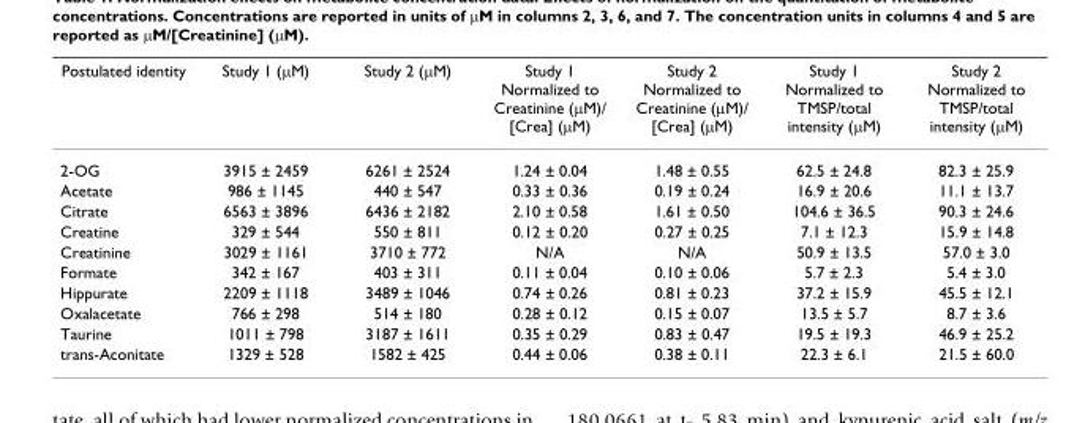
<table><thead><tr><td>Postulated identity</td><td>Study 1 (μM)</td><td>Study 2 (μM)</td><td>Study 1 Normalized to Creatinine (μM)/ [Crea] (μM)</td><td>Study 2 Normalized to Creatinine (μM)/ [Crea] (μM)</td><td>Study 1 Normalized to TMSP/total intensity (μM)</td><td>Study 2 Normalized to TMSP/total intensity (μM)</td></tr></thead><tbody><tr><td>2-OG</td><td>3915 ± 2459</td><td>6261 ± 2524</td><td>1.24 ± 0.04</td><td>1.48 ± 0.55</td><td>62.5 ± 24.8</td><td>82.3 ± 25.9</td></tr><tr><td>Acetate</td><td>986 ± 1145</td><td>440 ± 547</td><td>0.33 ± 0.36</td><td>0.19 ± 0.24</td><td>16.9 ± 20.6</td><td>11.1 ± 13.7</td></tr><tr><td>Citrate</td><td>6563 ± 3896</td><td>6436 ± 2182</td><td>2.10 ± 0.58</td><td>1.61 ± 0.50</td><td>104.6 ± 36.5</td><td>90.3 ± 24.6</td></tr><tr><td>Creatine</td><td>329 ± 544</td><td>550 ± 811</td><td>0.12 ± 0.20</td><td>0.27 ± 0.25</td><td>7.1 ± 12.3</td><td>15.9 ± 14.8</td></tr><tr><td>Creatinine</td><td>3029 ± 1161</td><td>3710 ± 772</td><td>N/A</td><td>N/A</td><td>50.9 ± 13.5</td><td>57.0 ± 3.0</td></tr><tr><td>Formate</td><td>342 ± 167</td><td>403 ± 311</td><td>0.11 ± 0.04</td><td>0.10 ± 0.06</td><td>5.7 ± 2.3</td><td>5.4 ± 3.0</td></tr><tr><td>Hippurate</td><td>2209 ± 1118</td><td>3489 ± 1046</td><td>0.74 ± 0.26</td><td>0.81 ± 0.23</td><td>37.2 ± 15.9</td><td>45.5 ± 12.1</td></tr><tr><td>Oxalacetate</td><td>766 ± 298</td><td>514 ± 180</td><td>0.28 ± 0.12</td><td>0.15 ± 0.07</td><td>13.5 ± 5.7</td><td>8.7 ± 3.6</td></tr><tr><td>Taurine</td><td>1011 ± 798</td><td>3187 ± 1611</td><td>0.35 ± 0.29</td><td>0.83 ± 0.47</td><td>19.5 ± 19.3</td><td>46.9 ± 25.2</td></tr><tr><td>trans-Aconitate</td><td>1329 ± 528</td><td>1582 ± 425</td><td>0.44 ± 0.06</td><td>0.38 ± 0.11</td><td>22.3 ± 6.1</td><td>21.5 ± 60.0</td></tr></tbody></table>